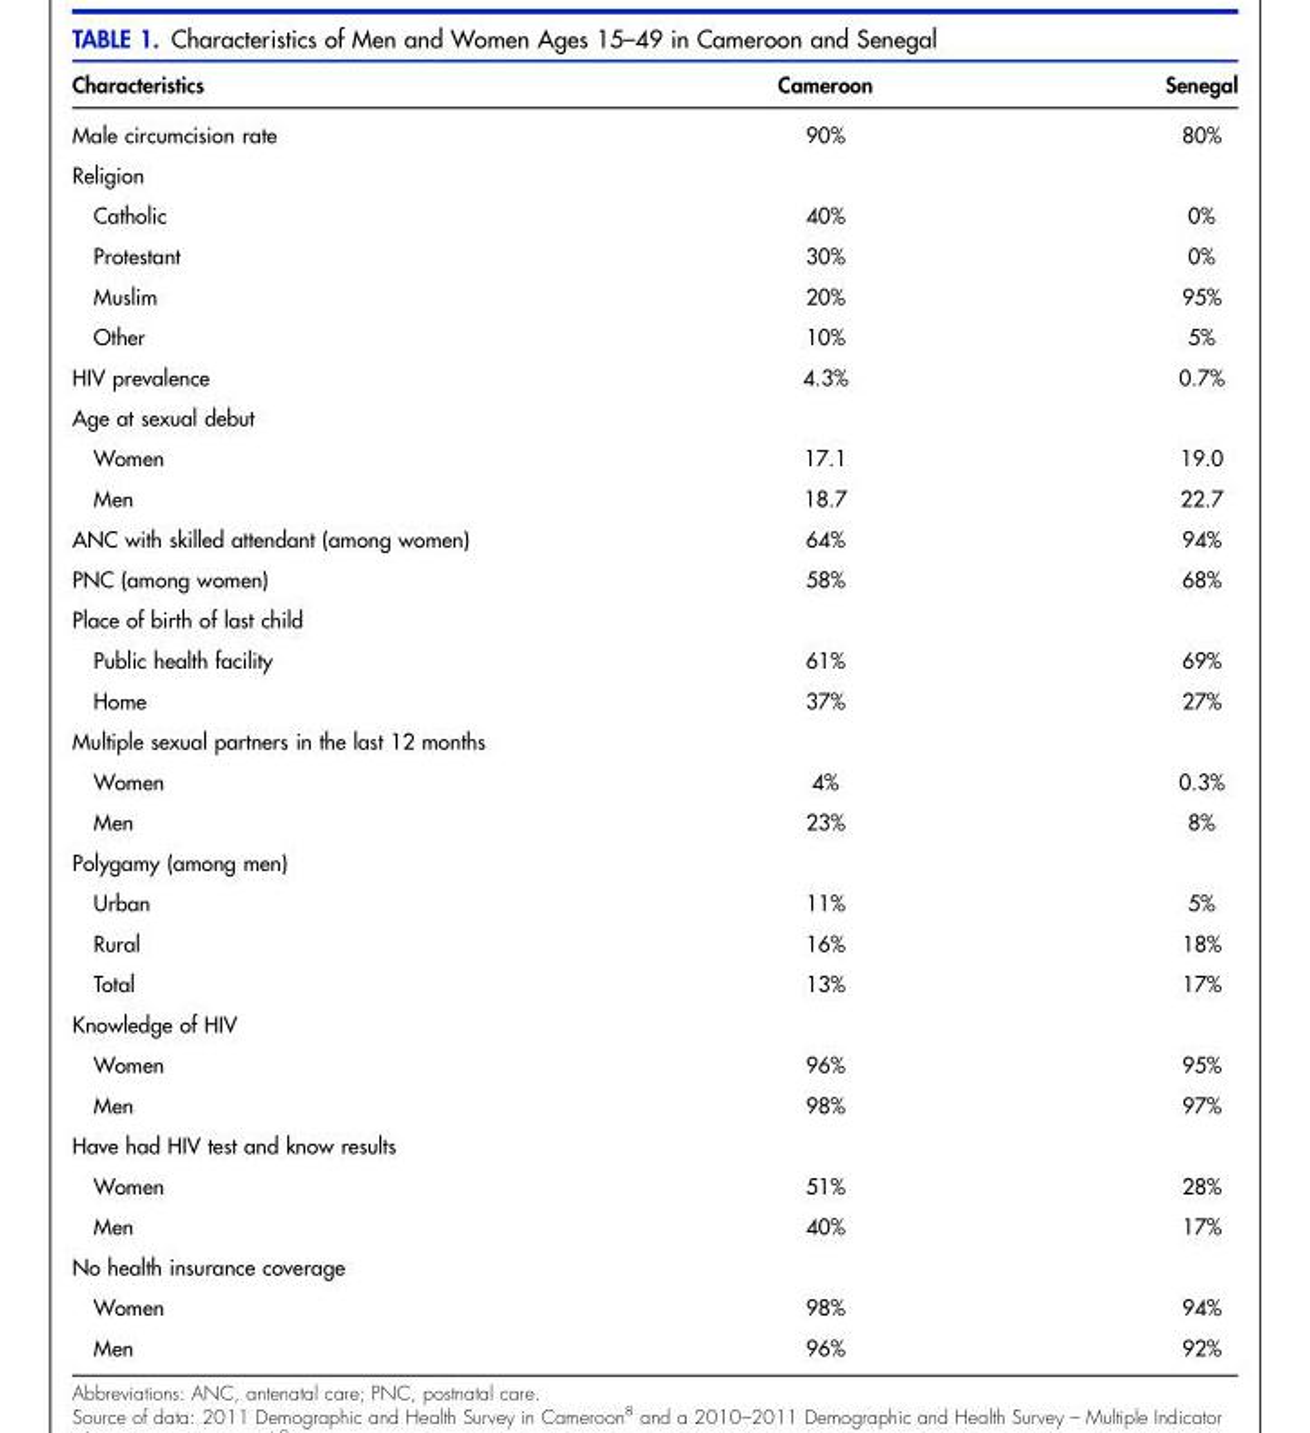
<table><thead><tr><td>Characteristics</td><td>Cameroon</td><td>Senegal</td></tr></thead><tbody><tr><td>Male circumcision rate</td><td>90%</td><td>80%</td></tr><tr><td colspan="3">Religion</td></tr><tr><td>Catholic</td><td>40%</td><td>0%</td></tr><tr><td>Protestant</td><td>30%</td><td>0%</td></tr><tr><td>Muslim</td><td>20%</td><td>95%</td></tr><tr><td>Other</td><td>10%</td><td>5%</td></tr><tr><td>HIV prevalence</td><td>4.3%</td><td>0.7%</td></tr><tr><td colspan="3">Age at sexual debut</td></tr><tr><td>Women</td><td>17.1</td><td>19.0</td></tr><tr><td>Men</td><td>18.7</td><td>22.7</td></tr><tr><td>ANC with skilled attendant (among women)</td><td>64%</td><td>94%</td></tr><tr><td>PNC (among women)</td><td>58%</td><td>68%</td></tr><tr><td colspan="3">Place of birth of last child</td></tr><tr><td>Public health facility</td><td>61%</td><td>69%</td></tr><tr><td>Home</td><td>37%</td><td>27%</td></tr><tr><td colspan="3">Multiple sexual partners in the last 12 months</td></tr><tr><td>Women</td><td>4%</td><td>0.3%</td></tr><tr><td>Men</td><td>23%</td><td>8%</td></tr><tr><td colspan="3">Polygamy (among men)</td></tr><tr><td>Urban</td><td>11%</td><td>5%</td></tr><tr><td>Rural</td><td>16%</td><td>18%</td></tr><tr><td>Total</td><td>13%</td><td>17%</td></tr><tr><td colspan="3">Knowledge of HIV</td></tr><tr><td>Women</td><td>96%</td><td>95%</td></tr><tr><td>Men</td><td>98%</td><td>97%</td></tr><tr><td colspan="3">Have had HIV test and know results</td></tr><tr><td>Women</td><td>51%</td><td>28%</td></tr><tr><td>Men</td><td>40%</td><td>17%</td></tr><tr><td colspan="3">No health insurance coverage</td></tr><tr><td>Women</td><td>98%</td><td>94%</td></tr><tr><td>Men</td><td>96%</td><td>92%</td></tr></tbody></table>